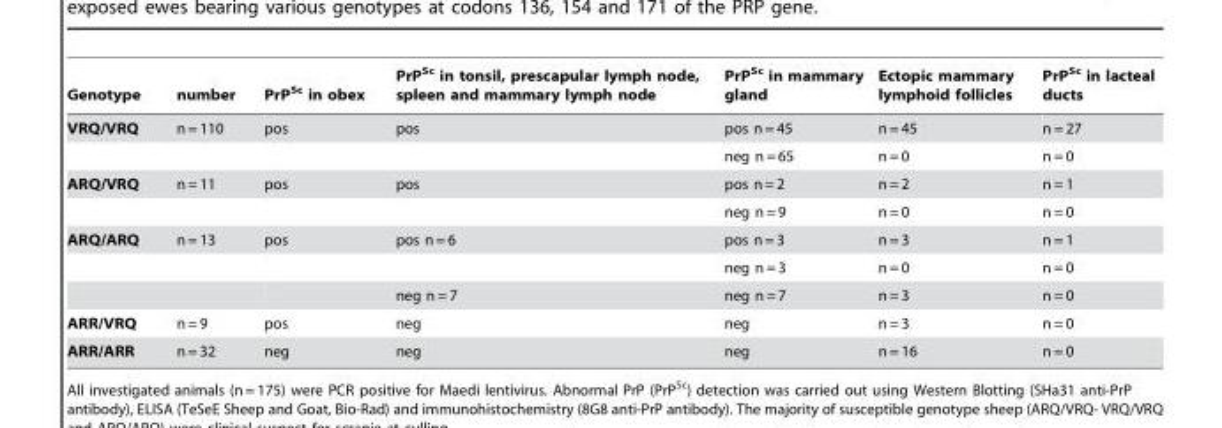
<table><thead><tr><td>Genotype</td><td>number</td><td>PrP<sup>Sc</sup> in obex</td><td>PrP<sup>Sc</sup> in tonsil, prescapular lymph node, spleen and mammary lymph node</td><td>PrP<sup>Sc</sup> in mammary gland</td><td>Ectopic mammary lymphoid follicles</td><td>PrP<sup>Sc</sup> in lacteal ducts</td></tr></thead><tbody><tr><td rowspan="2">VRQ/VRQ</td><td>n = 110</td><td>pos</td><td>pos</td><td>pos n = 45</td><td>n = 45</td><td>n = 27</td></tr><tr><td></td><td></td><td></td><td>neg n = 65</td><td>n = 0</td><td>n = 0</td></tr><tr><td rowspan="2">ARQ/VRQ</td><td>n = 11</td><td>pos</td><td>pos</td><td>pos n = 2</td><td>n = 2</td><td>n = 1</td></tr><tr><td></td><td></td><td></td><td>neg n = 9</td><td>n = 0</td><td>n = 0</td></tr><tr><td rowspan="3">ARQ/ARQ</td><td>n = 13</td><td>pos</td><td>pos n = 6</td><td>pos n = 3</td><td>n = 3</td><td>n = 1</td></tr><tr><td></td><td></td><td></td><td>neg n = 3</td><td>n = 0</td><td>n = 0</td></tr><tr><td></td><td></td><td>neg n = 7</td><td>neg n = 7</td><td>n = 3</td><td>n = 0</td></tr><tr><td>ARR/VRQ</td><td>n = 9</td><td>pos</td><td>neg</td><td>neg</td><td>n = 3</td><td>n = 0</td></tr><tr><td>ARR/ARR</td><td>n = 32</td><td>neg</td><td>neg</td><td>neg</td><td>n = 16</td><td>n = 0</td></tr></tbody></table>